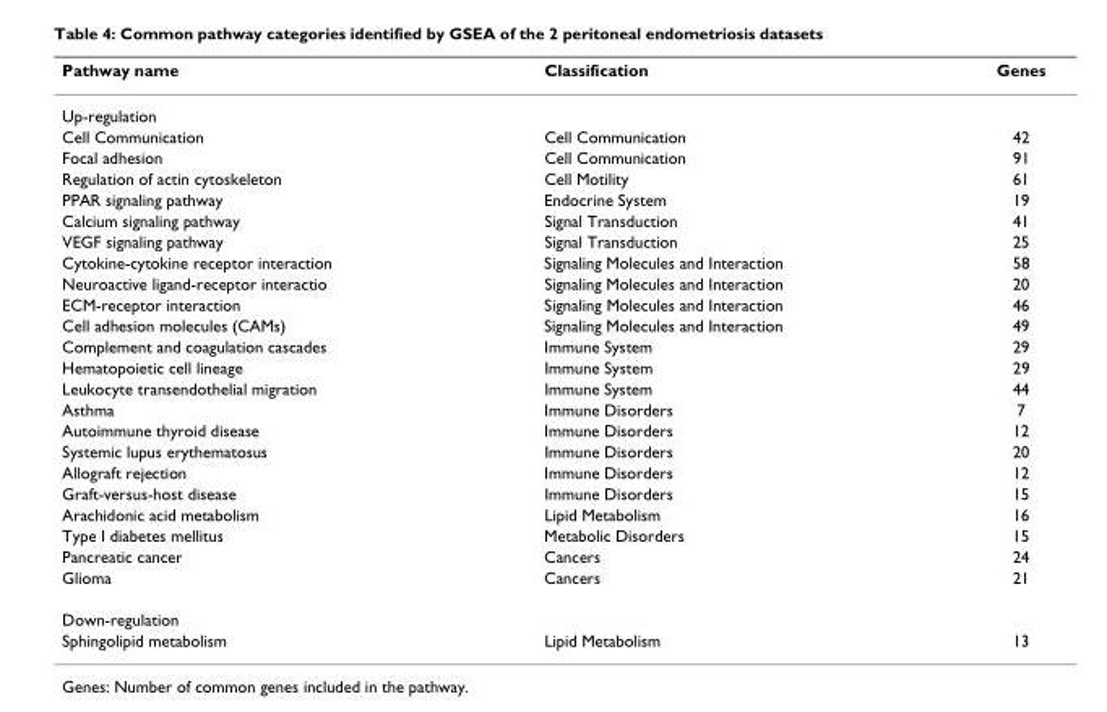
<table><thead><tr><td>Pathway name</td><td>Classification</td><td>Genes</td></tr></thead><tbody><tr><td colspan="3">Up-regulation</td></tr><tr><td>Cell Communication</td><td>Cell Communication</td><td>42</td></tr><tr><td>Focal adhesion</td><td>Cell Communication</td><td>91</td></tr><tr><td>Regulation of actin cytoskeleton</td><td>Cell Motility</td><td>61</td></tr><tr><td>PPAR signaling pathway</td><td>Endocrine System</td><td>19</td></tr><tr><td>Calcium signaling pathway</td><td>Signal Transduction</td><td>41</td></tr><tr><td>VEGF signaling pathway</td><td>Signal Transduction</td><td>25</td></tr><tr><td>Cytokine-cytokine receptor interaction</td><td>Signaling Molecules and Interaction</td><td>58</td></tr><tr><td>Neuroactive ligand-receptor interactio</td><td>Signaling Molecules and Interaction</td><td>20</td></tr><tr><td>ECM-receptor interaction</td><td>Signaling Molecules and Interaction</td><td>46</td></tr><tr><td>Cell adhesion molecules (CAMs)</td><td>Signaling Molecules and Interaction</td><td>49</td></tr><tr><td>Complement and coagulation cascades</td><td>Immune System</td><td>29</td></tr><tr><td>Hematopoietic cell lineage</td><td>Immune System</td><td>29</td></tr><tr><td>Leukocyte transendothelial migration</td><td>Immune System</td><td>44</td></tr><tr><td>Asthma</td><td>Immune Disorders</td><td>7</td></tr><tr><td>Autoimmune thyroid disease</td><td>Immune Disorders</td><td>12</td></tr><tr><td>Systemic lupus erythematosus</td><td>Immune Disorders</td><td>20</td></tr><tr><td>Allograft rejection</td><td>Immune Disorders</td><td>12</td></tr><tr><td>Graft-versus-host disease</td><td>Immune Disorders</td><td>15</td></tr><tr><td>Arachidonic acid metabolism</td><td>Lipid Metabolism</td><td>16</td></tr><tr><td>Type I diabetes mellitus</td><td>Metabolic Disorders</td><td>15</td></tr><tr><td>Pancreatic cancer</td><td>Cancers</td><td>24</td></tr><tr><td>Glioma</td><td>Cancers</td><td>21</td></tr><tr><td colspan="3">Down-regulation</td></tr><tr><td>Sphingolipid metabolism</td><td>Lipid Metabolism</td><td>13</td></tr></tbody></table>